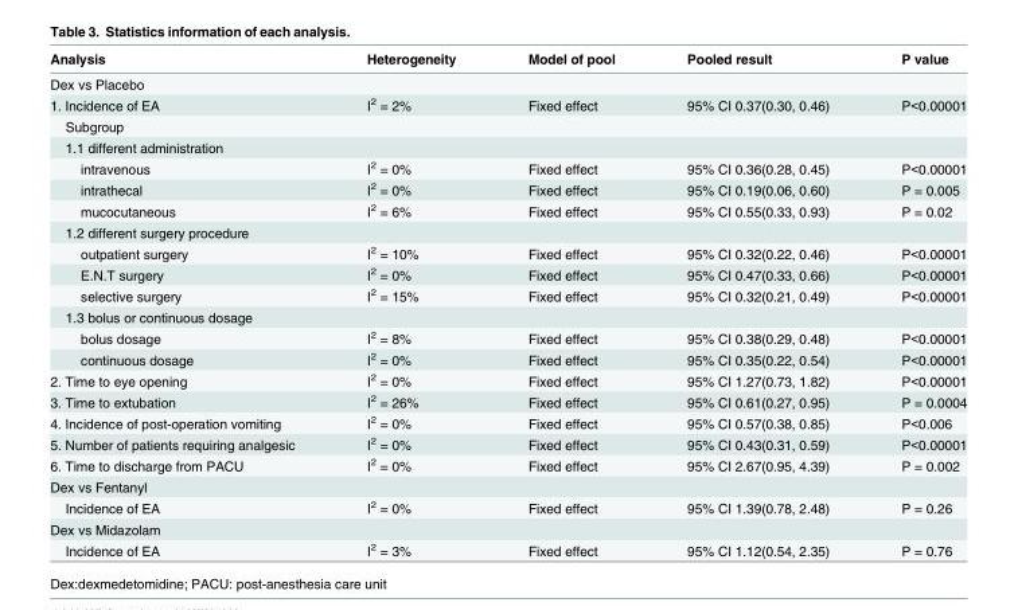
<table><thead><tr><td>Analysis</td><td>Heterogeneity</td><td>Model of pool</td><td>Pooled result</td><td>P value</td></tr></thead><tbody><tr><td colspan="5">Dex vs Placebo</td></tr><tr><td>1. Incidence of EA</td><td>I<sup>2</sup> = 2%</td><td>Fixed effect</td><td>95% CI 0.37(0.30, 0.46)</td><td>P&lt;0.00001</td></tr><tr><td colspan="5">Subgroup</td></tr><tr><td colspan="5">1.1 different administration</td></tr><tr><td>intravenous</td><td>I<sup>2</sup> = 0%</td><td>Fixed effect</td><td>95% CI 0.36(0.28, 0.45)</td><td>P&lt;0.00001</td></tr><tr><td>intrathecal</td><td>I<sup>2</sup> = 0%</td><td>Fixed effect</td><td>95% CI 0.19(0.06, 0.60)</td><td>P = 0.005</td></tr><tr><td>mucocutaneous</td><td>I<sup>2</sup> = 6%</td><td>Fixed effect</td><td>95% CI 0.55(0.33, 0.93)</td><td>P = 0.02</td></tr><tr><td colspan="5">1.2 different surgery procedure</td></tr><tr><td>outpatient surgery</td><td>I<sup>2</sup> = 10%</td><td>Fixed effect</td><td>95% CI 0.32(0.22, 0.46)</td><td>P&lt;0.00001</td></tr><tr><td>E.N.T surgery</td><td>I<sup>2</sup> = 0%</td><td>Fixed effect</td><td>95% CI 0.47(0.33, 0.66)</td><td>P&lt;0.00001</td></tr><tr><td>selective surgery</td><td>I<sup>2</sup> = 15%</td><td>Fixed effect</td><td>95% CI 0.32(0.21, 0.49)</td><td>P&lt;0.00001</td></tr><tr><td colspan="5">1.3 bolus or continuous dosage</td></tr><tr><td>bolus dosage</td><td>I<sup>2</sup> = 8%</td><td>Fixed effect</td><td>95% CI 0.38(0.29, 0.48)</td><td>P&lt;0.00001</td></tr><tr><td>continuous dosage</td><td>I<sup>2</sup> = 0%</td><td>Fixed effect</td><td>95% CI 0.35(0.22, 0.54)</td><td>P&lt;0.00001</td></tr><tr><td>2. Time to eye opening</td><td>I<sup>2</sup> = 0%</td><td>Fixed effect</td><td>95% CI 1.27(0.73, 1.82)</td><td>P&lt;0.00001</td></tr><tr><td>3. Time to extubation</td><td>I<sup>2</sup> = 26%</td><td>Fixed effect</td><td>95% CI 0.61(0.27, 0.95)</td><td>P = 0.0004</td></tr><tr><td>4. Incidence of post-operation vomiting</td><td>I<sup>2</sup> = 0%</td><td>Fixed effect</td><td>95% CI 0.57(0.38, 0.85)</td><td>P&lt;0.006</td></tr><tr><td>5. Number of patients requiring analgesic</td><td>I<sup>2</sup> = 0%</td><td>Fixed effect</td><td>95% CI 0.43(0.31, 0.59)</td><td>P&lt;0.00001</td></tr><tr><td>6. Time to discharge from PACU</td><td>I<sup>2</sup> = 0%</td><td>Fixed effect</td><td>95% CI 2.67(0.95, 4.39)</td><td>P = 0.002</td></tr><tr><td colspan="5">Dex vs Fentanyl</td></tr><tr><td>Incidence of EA</td><td>I<sup>2</sup> = 0%</td><td>Fixed effect</td><td>95% CI 1.39(0.78, 2.48)</td><td>P = 0.26</td></tr><tr><td colspan="5">Dex vs Midazolam</td></tr><tr><td>Incidence of EA</td><td>I<sup>2</sup> = 3%</td><td>Fixed effect</td><td>95% CI 1.12(0.54, 2.35)</td><td>P = 0.76</td></tr></tbody></table>